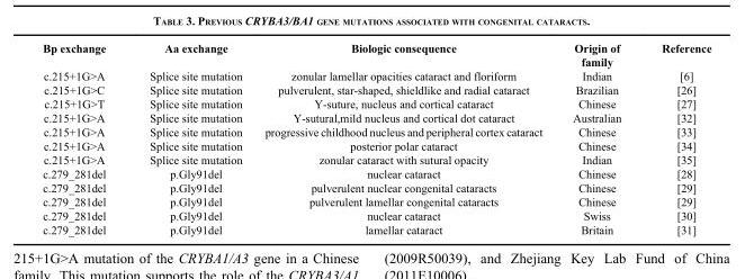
<table><thead><tr><td>Bp exchange</td><td>Aa exchange</td><td>Biologic consequence</td><td>Origin of family</td><td>Reference</td></tr></thead><tbody><tr><td>c.215+1G&gt;A</td><td>Splice site mutation</td><td>zonular lamellar opacities cataract and floriform</td><td>Indian</td><td>[6]</td></tr><tr><td>c.215+1G&gt;C</td><td>Splice site mutation</td><td>pulverulent, star-shaped, shieldlike and radial cataract</td><td>Brazilian</td><td>[26]</td></tr><tr><td>c.215+1G&gt;T</td><td>Splice site mutation</td><td>Y-suture, nucleus and cortical cataract</td><td>Chinese</td><td>[27]</td></tr><tr><td>c.215+1G&gt;A</td><td>Splice site mutation</td><td>Y-sutural,mild nucleus and cortical dot cataract</td><td>Australian</td><td>[32]</td></tr><tr><td>c.215+1G&gt;A</td><td>Splice site mutation</td><td>progressive childhood nucleus and peripheral cortex cataract</td><td>Chinese</td><td>[33]</td></tr><tr><td>c.215+1G&gt;A</td><td>Splice site mutation</td><td>posterior polar cataract</td><td>Chinese</td><td>[34]</td></tr><tr><td>c.215+1G&gt;A</td><td>Splice site mutation</td><td>zonular cataract with sutural opacity</td><td>Indian</td><td>[35]</td></tr><tr><td>c.279_281del</td><td>p.Gly91del</td><td>nuclear cataract</td><td>Chinese</td><td>[28]</td></tr><tr><td>c.279_281del</td><td>p.Gly91del</td><td>pulverulent nuclear congenital cataracts</td><td>Chinese</td><td>[29]</td></tr><tr><td>c.279_281del</td><td>p.Gly91del</td><td>pulverulent lamellar congenital cataracts</td><td>Chinese</td><td>[29]</td></tr><tr><td>c.279_281del</td><td>p.Gly91del</td><td>nuclear cataract</td><td>Swiss</td><td>[30]</td></tr><tr><td>c.279_281del</td><td>p.Gly91del</td><td>lamellar cataract</td><td>Britain</td><td>[31]</td></tr></tbody></table>